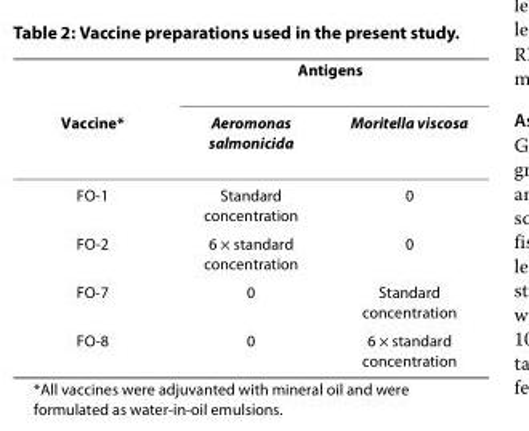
<table><thead><tr><td rowspan="2">Vaccine*</td><td colspan="2">Antigens</td></tr><tr><td>Aeromonas salmonicida</td><td>Moritella viscosa</td></tr></thead><tbody><tr><td>FO-1</td><td>Standard concentration</td><td>0</td></tr><tr><td>FO-2</td><td>6 × standard concentration</td><td>0</td></tr><tr><td>FO-7</td><td>0</td><td>Standard concentration</td></tr><tr><td>FO-8</td><td>0</td><td>6 × standard concentration</td></tr></tbody></table>